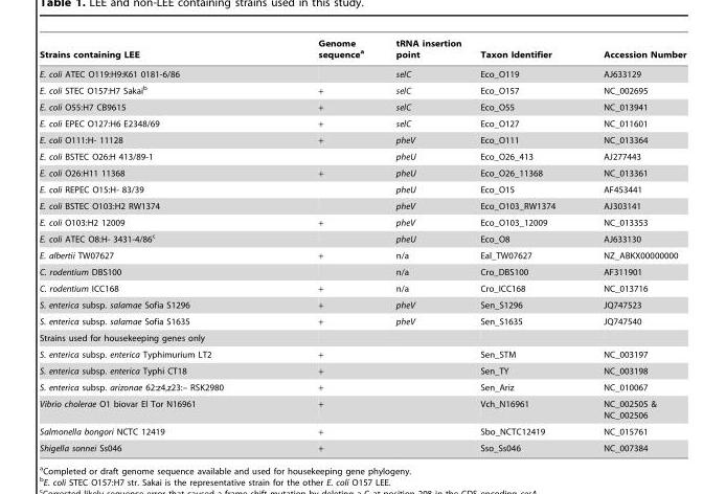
<table><thead><tr><td>Strains containing LEE</td><td>Genome sequence<sup>a</sup></td><td>tRNA insertion point</td><td>Taxon Identifier</td><td>Accession Number</td></tr></thead><tbody><tr><td>E. coli ATEC O119:H9:K61 0181-6/86</td><td></td><td>selC</td><td>Eco_O119</td><td>AJ633129</td></tr><tr><td>E. coli STEC O157:H7 Sakai<sup>b</sup></td><td>+</td><td>selC</td><td>Eco_O157</td><td>NC_002695</td></tr><tr><td>E. coli O55:H7 CB9615</td><td>+</td><td>selC</td><td>Eco_O55</td><td>NC_013941</td></tr><tr><td>E. coli EPEC O127:H6 E2348/69</td><td>+</td><td>selC</td><td>Eco_O127</td><td>NC_011601</td></tr><tr><td>E. coli O111:H- 11128</td><td>+</td><td>pheV</td><td>Eco_O111</td><td>NC_013364</td></tr><tr><td>E. coli BSTEC O26:H 413/89-1</td><td></td><td>pheU</td><td>Eco_O26_413</td><td>AJ277443</td></tr><tr><td>E. coli O26:H11 11368</td><td>+</td><td>pheU</td><td>Eco_O26_11368</td><td>NC_013361</td></tr><tr><td>E. coli REPEC O15:H- 83/39</td><td></td><td>pheU</td><td>Eco_O15</td><td>AF453441</td></tr><tr><td>E. coli BSTEC O103:H2 RW1374</td><td></td><td>pheV</td><td>Eco_O103_RW1374</td><td>AJ303141</td></tr><tr><td>E. coli O103:H2 12009</td><td>+</td><td>pheV</td><td>Eco_O103_12009</td><td>NC_013353</td></tr><tr><td>E. coli ATEC O8:H- 3431-4/86<sup>c</sup></td><td></td><td>pheU</td><td>Eco_O8</td><td>AJ633130</td></tr><tr><td>E. albertii TW07627</td><td>+</td><td>n/a</td><td>Eal_TW07627</td><td>NZ_ABKX00000000</td></tr><tr><td>C. rodentium DBS100</td><td></td><td>n/a</td><td>Cro_DBS100</td><td>AF311901</td></tr><tr><td>C. rodentium ICC168</td><td>+</td><td>n/a</td><td>Cro_ICC168</td><td>NC_013716</td></tr><tr><td>S. enterica subsp. salamae Sofia S1296</td><td>+</td><td>pheV</td><td>Sen_S1296</td><td>JQ747523</td></tr><tr><td>S. enterica subsp. salamae Sofia S1635</td><td>+</td><td>pheV</td><td>Sen_S1635</td><td>JQ747540</td></tr><tr><td colspan="5">Strains used for housekeeping genes only</td></tr><tr><td>S. enterica subsp. enterica Typhimurium LT2</td><td>+</td><td></td><td>Sen_STM</td><td>NC_003197</td></tr><tr><td>S. enterica subsp. enterica Typhi CT18</td><td>+</td><td></td><td>Sen_TY</td><td>NC_003198</td></tr><tr><td>S. enterica subsp. arizonae 62:z4,z23:– RSK2980</td><td>+</td><td></td><td>Sen_Ariz</td><td>NC_010067</td></tr><tr><td>Vibrio cholerae O1 biovar El Tor N16961</td><td>+</td><td></td><td>Vch_N16961</td><td>NC_002505 &amp; NC_002506</td></tr><tr><td>Salmonella bongori NCTC 12419</td><td>+</td><td></td><td>Sbo_NCTC12419</td><td>NC_015761</td></tr><tr><td>Shigella sonnei Ss046</td><td>+</td><td></td><td>Sso_Ss046</td><td>NC_007384</td></tr></tbody></table>